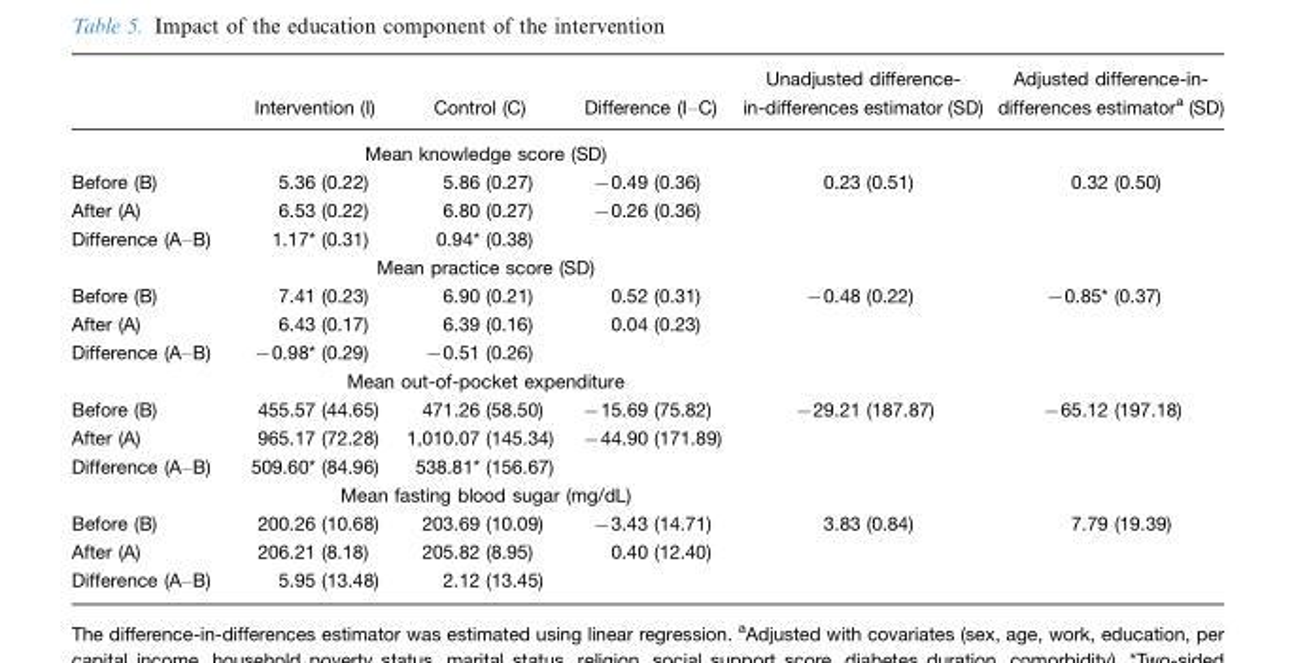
<table><thead><tr><td></td><td>Intervention (I)</td><td>Control (C)</td><td>Difference (I–C)</td><td>Unadjusted difference- in-differences estimator (SD)</td><td>Adjusted difference-in- differences estimator<sup>a</sup> (SD)</td></tr></thead><tbody><tr><td></td><td colspan="3">Mean knowledge score (SD)</td><td></td><td></td></tr><tr><td>Before (B)</td><td>5.36 (0.22)</td><td>5.86 (0.27)</td><td>−0.49 (0.36)</td><td>0.23 (0.51)</td><td>0.32 (0.50)</td></tr><tr><td>After (A)</td><td>6.53 (0.22)</td><td>6.80 (0.27)</td><td>−0.26 (0.36)</td><td></td><td></td></tr><tr><td rowspan="2">Difference (A–B)</td><td>1.17* (0.31)</td><td>0.94* (0.38)</td><td></td><td></td><td></td></tr><tr><td colspan="3">Mean practice score (SD)</td><td></td><td></td></tr><tr><td>Before (B)</td><td>7.41 (0.23)</td><td>6.90 (0.21)</td><td>0.52 (0.31)</td><td>−0.48 (0.22)</td><td>−0.85* (0.37)</td></tr><tr><td>After (A)</td><td>6.43 (0.17)</td><td>6.39 (0.16)</td><td>0.04 (0.23)</td><td></td><td></td></tr><tr><td rowspan="2">Difference (A–B)</td><td>−0.98* (0.29)</td><td>−0.51 (0.26)</td><td></td><td></td><td></td></tr><tr><td colspan="3">Mean out-of-pocket expenditure</td><td></td><td></td></tr><tr><td>Before (B)</td><td>455.57 (44.65)</td><td>471.26 (58.50)</td><td>−15.69 (75.82)</td><td>−29.21 (187.87)</td><td>−65.12 (197.18)</td></tr><tr><td>After (A)</td><td>965.17 (72.28)</td><td>1,010.07 (145.34)</td><td>−44.90 (171.89)</td><td></td><td></td></tr><tr><td rowspan="2">Difference (A–B)</td><td>509.60* (84.96)</td><td>538.81* (156.67)</td><td></td><td></td><td></td></tr><tr><td colspan="3">Mean fasting blood sugar (mg/dL)</td><td></td><td></td></tr><tr><td>Before (B)</td><td>200.26 (10.68)</td><td>203.69 (10.09)</td><td>−3.43 (14.71)</td><td>3.83 (0.84)</td><td>7.79 (19.39)</td></tr><tr><td>After (A)</td><td>206.21 (8.18)</td><td>205.82 (8.95)</td><td>0.40 (12.40)</td><td></td><td></td></tr><tr><td>Difference (A–B)</td><td>5.95 (13.48)</td><td>2.12 (13.45)</td><td></td><td></td><td></td></tr></tbody></table>